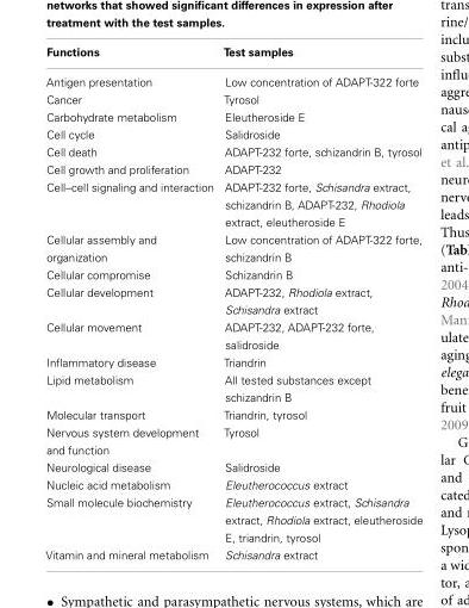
<table><thead><tr><td>Functions</td><td>Test samples</td></tr></thead><tbody><tr><td>Antigen presentation</td><td>Low concentration of ADAPT-322 forte</td></tr><tr><td>Cancer</td><td>Tyrosol</td></tr><tr><td>Carbohydrate metabolism</td><td>Eleutheroside E</td></tr><tr><td>Cell cycle</td><td>Salidroside</td></tr><tr><td>Cell death</td><td>ADAPT-232 forte, schizandrin B, tyrosol</td></tr><tr><td>Cell growth and proliferation</td><td>ADAPT-232</td></tr><tr><td>Cell–cell signaling and interaction</td><td>ADAPT-232 forte, Schisandra extract, schizandrin B, ADAPT-232, Rhodiola extract, eleutheroside E</td></tr><tr><td>Cellular assembly and organization</td><td>Low concentration of ADAPT-322 forte, schizandrin B</td></tr><tr><td>Cellular compromise</td><td>Schizandrin B</td></tr><tr><td>Cellular development</td><td>ADAPT-232, Rhodiola extract, Schisandra extract</td></tr><tr><td>Cellular movement</td><td>ADAPT-232, ADAPT-232 forte, salidroside</td></tr><tr><td>Inflammatory disease</td><td>Triandrin</td></tr><tr><td>Lipid metabolism</td><td>All tested substances except schizandrin B</td></tr><tr><td>Molecular transport</td><td>Triandrin, tyrosol</td></tr><tr><td>Nervous system development and function</td><td>Tyrosol</td></tr><tr><td>Neurological disease</td><td>Salidroside</td></tr><tr><td>Nucleic acid metabolism</td><td>Eleutherococcus extract</td></tr><tr><td>Small molecule biochemistry</td><td>Eleutherococcus extract, Schisandra extract, Rhodiola extract, eleutheroside E, triandrin, tyrosol</td></tr><tr><td>Vitamin and mineral metabolism</td><td>Schisandra extract</td></tr></tbody></table>